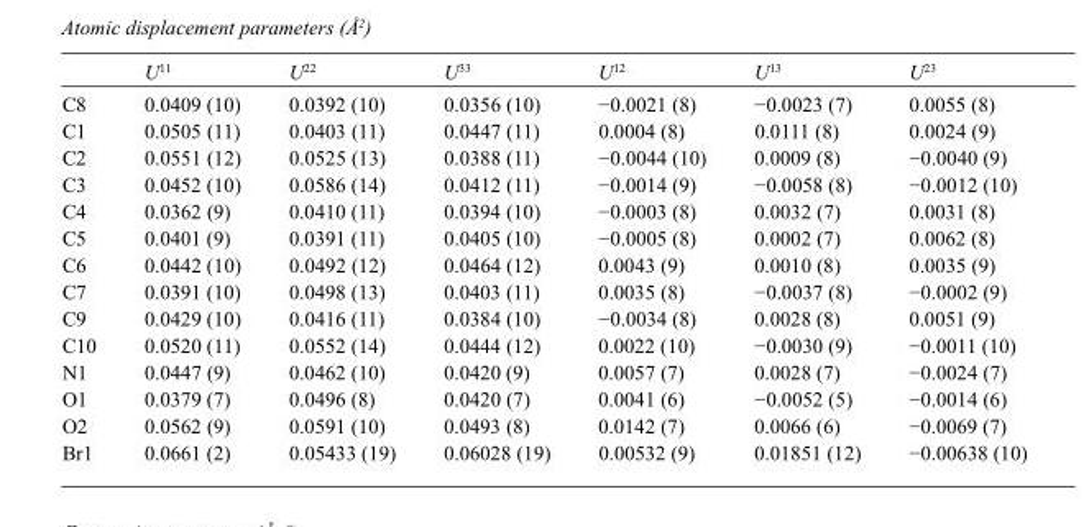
<table><thead><tr><td></td><td>U<sup>11</sup></td><td>U<sup>22</sup></td><td>U<sup>33</sup></td><td>U<sup>12</sup></td><td>U<sup>13</sup></td><td>U<sup>23</sup></td></tr></thead><tbody><tr><td>C8</td><td>0.0409 (10)</td><td>0.0392 (10)</td><td>0.0356 (10)</td><td>−0.0021 (8)</td><td>−0.0023 (7)</td><td>0.0055 (8)</td></tr><tr><td>C1</td><td>0.0505 (11)</td><td>0.0403 (11)</td><td>0.0447 (11)</td><td>0.0004 (8)</td><td>0.0111 (8)</td><td>0.0024 (9)</td></tr><tr><td>C2</td><td>0.0551 (12)</td><td>0.0525 (13)</td><td>0.0388 (11)</td><td>−0.0044 (10)</td><td>0.0009 (8)</td><td>−0.0040 (9)</td></tr><tr><td>C3</td><td>0.0452 (10)</td><td>0.0586 (14)</td><td>0.0412 (11)</td><td>−0.0014 (9)</td><td>−0.0058 (8)</td><td>−0.0012 (10)</td></tr><tr><td>C4</td><td>0.0362 (9)</td><td>0.0410 (11)</td><td>0.0394 (10)</td><td>−0.0003 (8)</td><td>0.0032 (7)</td><td>0.0031 (8)</td></tr><tr><td>C5</td><td>0.0401 (9)</td><td>0.0391 (11)</td><td>0.0405 (10)</td><td>−0.0005 (8)</td><td>0.0002 (7)</td><td>0.0062 (8)</td></tr><tr><td>C6</td><td>0.0442 (10)</td><td>0.0492 (12)</td><td>0.0464 (12)</td><td>0.0043 (9)</td><td>0.0010 (8)</td><td>0.0035 (9)</td></tr><tr><td>C7</td><td>0.0391 (10)</td><td>0.0498 (13)</td><td>0.0403 (11)</td><td>0.0035 (8)</td><td>−0.0037 (8)</td><td>−0.0002 (9)</td></tr><tr><td>C9</td><td>0.0429 (10)</td><td>0.0416 (11)</td><td>0.0384 (10)</td><td>−0.0034 (8)</td><td>0.0028 (8)</td><td>0.0051 (9)</td></tr><tr><td>C10</td><td>0.0520 (11)</td><td>0.0552 (14)</td><td>0.0444 (12)</td><td>0.0022 (10)</td><td>−0.0030 (9)</td><td>−0.0011 (10)</td></tr><tr><td>N1</td><td>0.0447 (9)</td><td>0.0462 (10)</td><td>0.0420 (9)</td><td>0.0057 (7)</td><td>0.0028 (7)</td><td>−0.0024 (7)</td></tr><tr><td>O1</td><td>0.0379 (7)</td><td>0.0496 (8)</td><td>0.0420 (7)</td><td>0.0041 (6)</td><td>−0.0052 (5)</td><td>−0.0014 (6)</td></tr><tr><td>O2</td><td>0.0562 (9)</td><td>0.0591 (10)</td><td>0.0493 (8)</td><td>0.0142 (7)</td><td>0.0066 (6)</td><td>−0.0069 (7)</td></tr><tr><td>Br1</td><td>0.0661 (2)</td><td>0.05433 (19)</td><td>0.06028 (19)</td><td>0.00532 (9)</td><td>0.01851 (12)</td><td>−0.00638 (10)</td></tr></tbody></table>